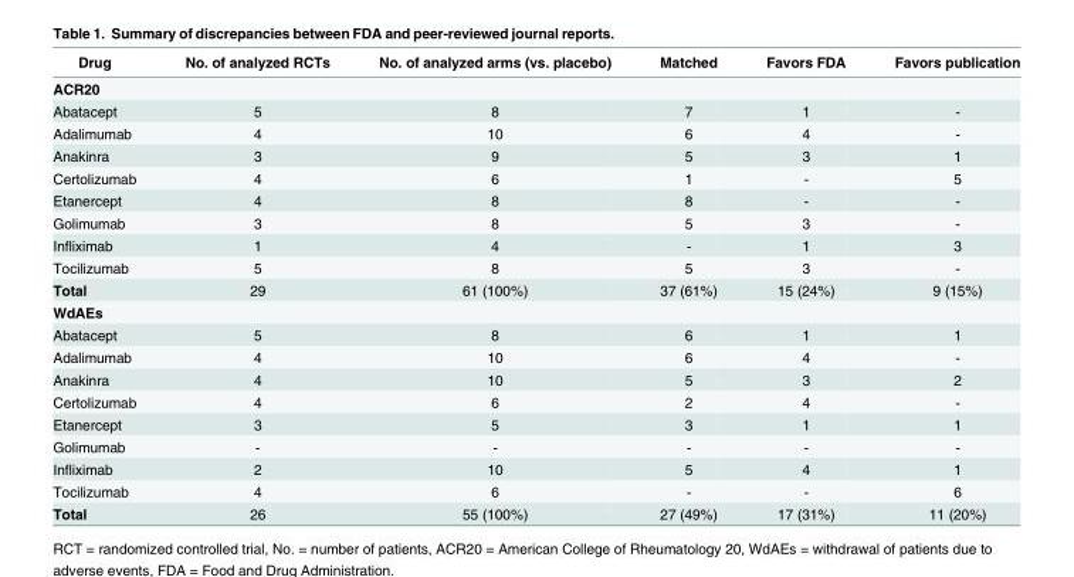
<table><thead><tr><td>Drug</td><td>No. of analyzed RCTs</td><td>No. of analyzed arms (vs. placebo)</td><td>Matched</td><td>Favors FDA</td><td>Favors publication</td></tr></thead><tbody><tr><td colspan="6">ACR20</td></tr><tr><td>Abatacept</td><td>5</td><td>8</td><td>7</td><td>1</td><td>-</td></tr><tr><td>Adalimumab</td><td>4</td><td>10</td><td>6</td><td>4</td><td>-</td></tr><tr><td>Anakinra</td><td>3</td><td>9</td><td>5</td><td>3</td><td>1</td></tr><tr><td>Certolizumab</td><td>4</td><td>6</td><td>1</td><td>-</td><td>5</td></tr><tr><td>Etanercept</td><td>4</td><td>8</td><td>8</td><td>-</td><td>-</td></tr><tr><td>Golimumab</td><td>3</td><td>8</td><td>5</td><td>3</td><td>-</td></tr><tr><td>Infliximab</td><td>1</td><td>4</td><td>-</td><td>1</td><td>3</td></tr><tr><td>Tocilizumab</td><td>5</td><td>8</td><td>5</td><td>3</td><td>-</td></tr><tr><td>Total</td><td>29</td><td>61 (100%)</td><td>37 (61%)</td><td>15 (24%)</td><td>9 (15%)</td></tr><tr><td colspan="6">WdAEs</td></tr><tr><td>Abatacept</td><td>5</td><td>8</td><td>6</td><td>1</td><td>1</td></tr><tr><td>Adalimumab</td><td>4</td><td>10</td><td>6</td><td>4</td><td>-</td></tr><tr><td>Anakinra</td><td>4</td><td>10</td><td>5</td><td>3</td><td>2</td></tr><tr><td>Certolizumab</td><td>4</td><td>6</td><td>2</td><td>4</td><td>-</td></tr><tr><td>Etanercept</td><td>3</td><td>5</td><td>3</td><td>1</td><td>1</td></tr><tr><td>Golimumab</td><td>-</td><td>-</td><td>-</td><td>-</td><td>-</td></tr><tr><td>Infliximab</td><td>2</td><td>10</td><td>5</td><td>4</td><td>1</td></tr><tr><td>Tocilizumab</td><td>4</td><td>6</td><td>-</td><td>-</td><td>6</td></tr><tr><td>Total</td><td>26</td><td>55 (100%)</td><td>27 (49%)</td><td>17 (31%)</td><td>11 (20%)</td></tr></tbody></table>